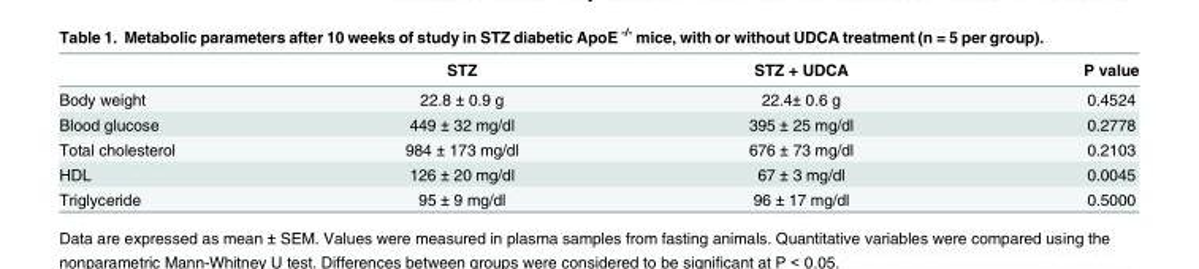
<table><thead><tr><td></td><td>STZ</td><td>STZ + UDCA</td><td>P value</td></tr></thead><tbody><tr><td>Body weight</td><td>22.8 ± 0.9 g</td><td>22.4± 0.6 g</td><td>0.4524</td></tr><tr><td>Blood glucose</td><td>449 ± 32 mg/dl</td><td>395 ± 25 mg/dl</td><td>0.2778</td></tr><tr><td>Total cholesterol</td><td>984 ± 173 mg/dl</td><td>676 ± 73 mg/dl</td><td>0.2103</td></tr><tr><td>HDL</td><td>126 ± 20 mg/dl</td><td>67 ± 3 mg/dl</td><td>0.0045</td></tr><tr><td>Triglyceride</td><td>95 ± 9 mg/dl</td><td>96 ± 17 mg/dl</td><td>0.5000</td></tr></tbody></table>